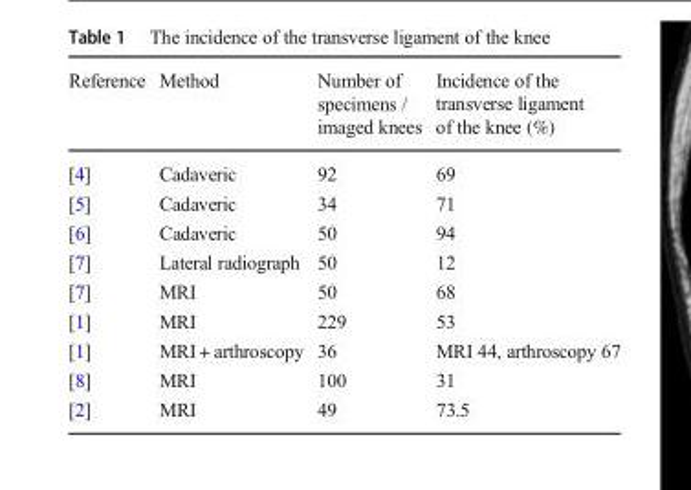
<table><thead><tr><td>Reference</td><td>Method</td><td>Number of specimens / imaged knees</td><td>Incidence of the transverse ligament of the knee (%)</td></tr></thead><tbody><tr><td>[4]</td><td>Cadaveric</td><td>92</td><td>69</td></tr><tr><td>[5]</td><td>Cadaveric</td><td>34</td><td>71</td></tr><tr><td>[6]</td><td>Cadaveric</td><td>50</td><td>94</td></tr><tr><td>[7]</td><td>Lateral radiograph</td><td>50</td><td>12</td></tr><tr><td>[7]</td><td>MRI</td><td>50</td><td>68</td></tr><tr><td>[1]</td><td>MRI</td><td>229</td><td>53</td></tr><tr><td>[1]</td><td>MRI + arthroscopy</td><td>36</td><td>MRI 44, arthroscopy 67</td></tr><tr><td>[8]</td><td>MRI</td><td>100</td><td>31</td></tr><tr><td>[2]</td><td>MRI</td><td>49</td><td>73.5</td></tr></tbody></table>